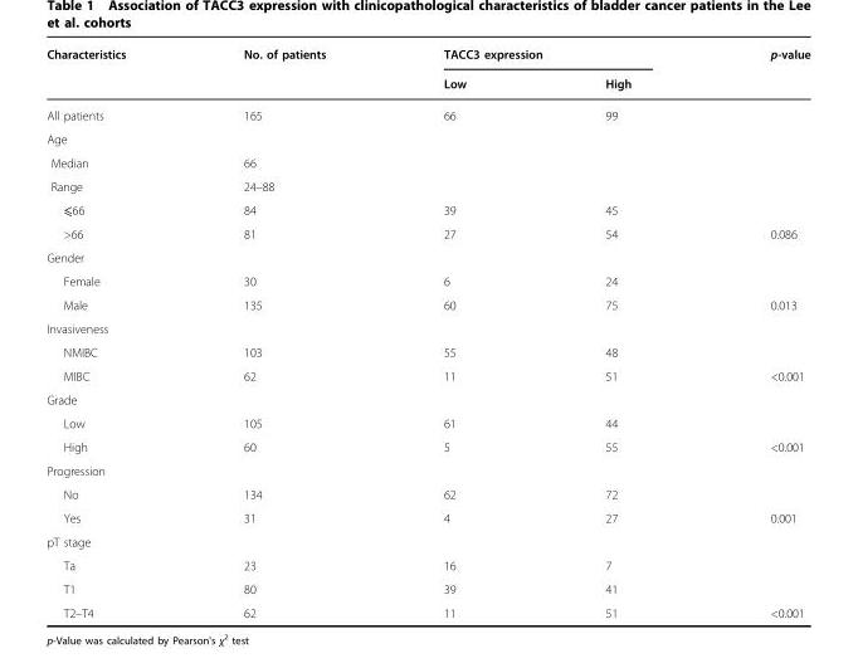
<table><thead><tr><td rowspan="2">Characteristics</td><td rowspan="2">No. of patients</td><td colspan="2">TACC3 expression</td><td rowspan="2">p-value</td></tr><tr><td>Low</td><td>High</td></tr></thead><tbody><tr><td>All patients</td><td>165</td><td>66</td><td>99</td><td></td></tr><tr><td colspan="5">Age</td></tr><tr><td>Median</td><td>66</td><td></td><td></td><td></td></tr><tr><td>Range</td><td>24–88</td><td></td><td></td><td></td></tr><tr><td>⩽66</td><td>84</td><td>39</td><td>45</td><td></td></tr><tr><td>&gt;66</td><td>81</td><td>27</td><td>54</td><td>0.086</td></tr><tr><td colspan="5">Gender</td></tr><tr><td>Female</td><td>30</td><td>6</td><td>24</td><td></td></tr><tr><td>Male</td><td>135</td><td>60</td><td>75</td><td>0.013</td></tr><tr><td colspan="5">Invasiveness</td></tr><tr><td>NMIBC</td><td>103</td><td>55</td><td>48</td><td></td></tr><tr><td>MIBC</td><td>62</td><td>11</td><td>51</td><td>&lt;0.001</td></tr><tr><td colspan="5">Grade</td></tr><tr><td>Low</td><td>105</td><td>61</td><td>44</td><td></td></tr><tr><td>High</td><td>60</td><td>5</td><td>55</td><td>&lt;0.001</td></tr><tr><td colspan="5">Progression</td></tr><tr><td>No</td><td>134</td><td>62</td><td>72</td><td></td></tr><tr><td>Yes</td><td>31</td><td>4</td><td>27</td><td>0.001</td></tr><tr><td colspan="5">pT stage</td></tr><tr><td>Ta</td><td>23</td><td>16</td><td>7</td><td></td></tr><tr><td>T1</td><td>80</td><td>39</td><td>41</td><td></td></tr><tr><td>T2–T4</td><td>62</td><td>11</td><td>51</td><td>&lt;0.001</td></tr></tbody></table>